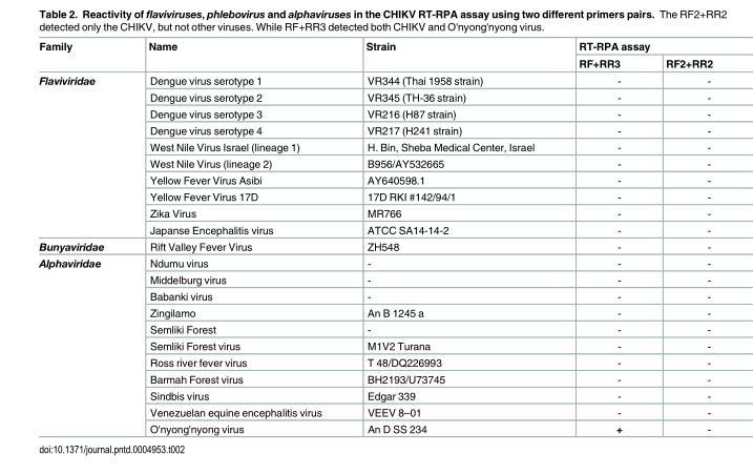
<table><thead><tr><td rowspan="2">Family</td><td rowspan="2">Name</td><td rowspan="2">Strain</td><td colspan="2">RT-RPA assay</td></tr><tr><td>RF+RR3</td><td>RF2+RR2</td></tr></thead><tbody><tr><td rowspan="10">Flaviviridae</td><td>Dengue virus serotype 1</td><td>VR344 (Thai 1958 strain)</td><td>-</td><td>-</td></tr><tr><td>Dengue virus serotype 2</td><td>VR345 (TH-36 strain)</td><td>-</td><td>-</td></tr><tr><td>Dengue virus serotype 3</td><td>VR216 (H87 strain)</td><td>-</td><td>-</td></tr><tr><td>Dengue virus serotype 4</td><td>VR217 (H241 strain)</td><td>-</td><td>-</td></tr><tr><td>West Nile Virus Israel (lineage 1)</td><td>H. Bin, Sheba Medical Center, Israel</td><td>-</td><td>-</td></tr><tr><td>West Nile Virus (lineage 2)</td><td>B956/AY532665</td><td>-</td><td>-</td></tr><tr><td>Yellow Fever Virus Asibi</td><td>AY640598.1</td><td>-</td><td>-</td></tr><tr><td>Yellow Fever Virus 17D</td><td>17D RKI #142/94/1</td><td>-</td><td>-</td></tr><tr><td>Zika Virus</td><td>MR766</td><td>-</td><td>-</td></tr><tr><td>Japanse Encephalitis virus</td><td>ATCC SA14-14-2</td><td>-</td><td>-</td></tr><tr><td>Bunyaviridae</td><td>Rift Valley Fever Virus</td><td>ZH548</td><td>-</td><td>-</td></tr><tr><td rowspan="11">Alphaviridae</td><td>Ndumu virus</td><td>-</td><td>-</td><td>-</td></tr><tr><td>Middelburg virus</td><td>-</td><td>-</td><td>-</td></tr><tr><td>Babanki virus</td><td>-</td><td>-</td><td>-</td></tr><tr><td>Zingilamo</td><td>An B 1245 a</td><td>-</td><td>-</td></tr><tr><td>Semliki Forest</td><td>-</td><td>-</td><td>-</td></tr><tr><td>Semliki Forest virus</td><td>M1V2 Turana</td><td>-</td><td>-</td></tr><tr><td>Ross river fever virus</td><td>T 48/DQ226993</td><td>-</td><td>-</td></tr><tr><td>Barmah Forest virus</td><td>BH2193/U73745</td><td>-</td><td>-</td></tr><tr><td>Sindbis virus</td><td>Edgar 339</td><td>-</td><td>-</td></tr><tr><td>Venezuelan equine encephalitis virus</td><td>VEEV 8–01</td><td>-</td><td>-</td></tr><tr><td>O&#x27;nyong&#x27;nyong virus</td><td>An D SS 234</td><td>+</td><td>-</td></tr></tbody></table>